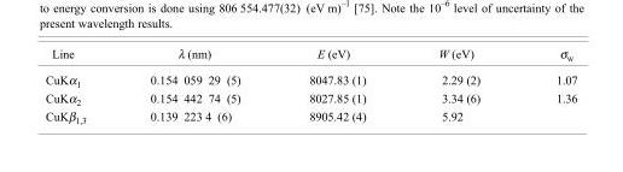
<table><thead><tr><td>Line</td><td>λ (nm)</td><td>E (eV)</td><td>W (eV)</td><td>σ<sub>w</sub></td></tr></thead><tbody><tr><td>CuKα<sub>1</sub></td><td>0.154 059 29 (5)</td><td>8047.83 (1)</td><td>2.29 (2)</td><td>1.07</td></tr><tr><td>CuKα<sub>2</sub></td><td>0.154 442 74 (5)</td><td>8027.85 (1)</td><td>3.34 (6)</td><td>1.36</td></tr><tr><td>CuKβ<sub>1,3</sub></td><td>0.139 223 4 (6)</td><td>8905.42 (4)</td><td>5.92</td><td></td></tr></tbody></table>